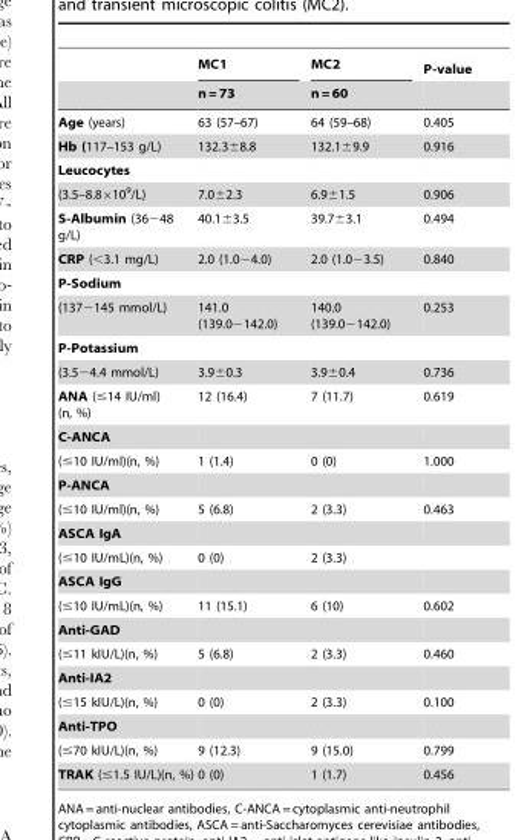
<table><thead><tr><td rowspan="2"></td><td rowspan="2">MC1 n = 73</td><td rowspan="2">MC2 n = 60</td><td rowspan="2">P-value</td></tr><tr></tr></thead><tbody><tr><td>Age (years)</td><td>63 (57–67)</td><td>64 (59–68)</td><td>0.405</td></tr><tr><td>Hb (117–153 g/L)</td><td>132.3±8.8</td><td>132.1±9.9</td><td>0.916</td></tr><tr><td colspan="4">Leucocytes</td></tr><tr><td>(3.5–8.8×10<sup>9</sup>/L)</td><td>7.0±2.3</td><td>6.9±1.5</td><td>0.906</td></tr><tr><td>S-Albumin (36−48 g/L)</td><td>40.1±3.5</td><td>39.7±3.1</td><td>0.494</td></tr><tr><td>CRP (&lt;3.1 mg/L)</td><td>2.0 (1.0−4.0)</td><td>2.0 (1.0−3.5)</td><td>0.840</td></tr><tr><td colspan="4">P-Sodium</td></tr><tr><td>(137−145 mmol/L)</td><td>141.0 (139.0−142.0)</td><td>140.0 (139.0−142.0)</td><td>0.253</td></tr><tr><td colspan="4">P-Potassium</td></tr><tr><td>(3.5−4.4 mmol/L)</td><td>3.9±0.3</td><td>3.9±0.4</td><td>0.736</td></tr><tr><td>ANA (≤14 IU/ml) (n, %)</td><td>12 (16.4)</td><td>7 (11.7)</td><td>0.619</td></tr><tr><td colspan="4">C-ANCA</td></tr><tr><td>(≤10 IU/ml)(n, %)</td><td>1 (1.4)</td><td>0 (0)</td><td>1.000</td></tr><tr><td colspan="4">P-ANCA</td></tr><tr><td>(≤10 IU/ml)(n, %)</td><td>5 (6.8)</td><td>2 (3.3)</td><td>0.463</td></tr><tr><td colspan="4">ASCA IgA</td></tr><tr><td>(≤10 IU/mL)(n, %)</td><td>0 (0)</td><td>2 (3.3)</td><td></td></tr><tr><td colspan="4">ASCA IgG</td></tr><tr><td>(≤10 IU/mL)(n, %)</td><td>11 (15.1)</td><td>6 (10)</td><td>0.602</td></tr><tr><td colspan="4">Anti-GAD</td></tr><tr><td>(≤11 kIU/L)(n, %)</td><td>5 (6.8)</td><td>2 (3.3)</td><td>0.460</td></tr><tr><td colspan="4">Anti-IA2</td></tr><tr><td>(≤15 kIU/L)(n, %)</td><td>0 (0)</td><td>2 (3.3)</td><td>0.100</td></tr><tr><td colspan="4">Anti-TPO</td></tr><tr><td>(≤70 kIU/L)(n, %)</td><td>9 (12.3)</td><td>9 (15.0)</td><td>0.799</td></tr><tr><td>TRAK (≤1.5 IU/L)(n, %)</td><td>0 (0)</td><td>1 (1.7)</td><td>0.456</td></tr></tbody></table>